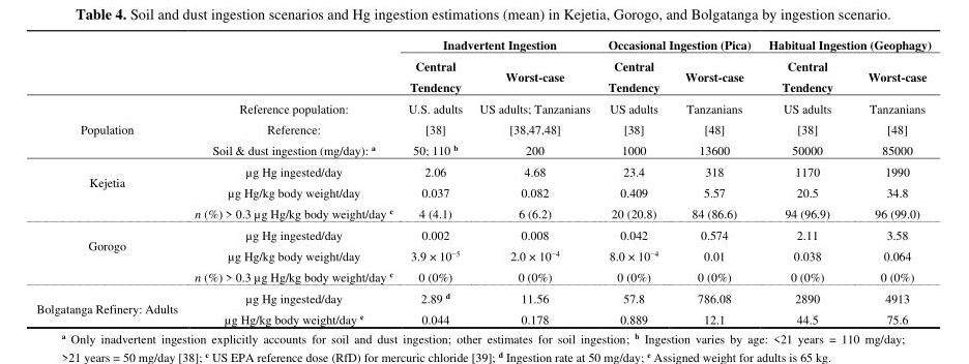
<table><thead><tr><td rowspan="2"></td><td rowspan="2"></td><td colspan="2">Inadvertent Ingestion</td><td colspan="2">Occasional Ingestion (Pica)</td><td colspan="2">Habitual Ingestion (Geophagy)</td></tr><tr><td>Central Tendency</td><td>Worst-case</td><td>Central Tendency</td><td>Worst-case</td><td>Central Tendency</td><td>Worst-case</td></tr></thead><tbody><tr><td rowspan="3">Population</td><td>Reference population:</td><td>U.S. adults</td><td>US adults; Tanzanians</td><td>US adults</td><td>Tanzanians</td><td>US adults</td><td>Tanzanians</td></tr><tr><td>Reference:</td><td>[38]</td><td>[38,47,48]</td><td>[38]</td><td>[48]</td><td>[38]</td><td>[48]</td></tr><tr><td>Soil &amp; dust ingestion (mg/day): <sup>a</sup></td><td>50; 110 <sup>b</sup></td><td>200</td><td>1000</td><td>13600</td><td>50000</td><td>85000</td></tr><tr><td rowspan="3">Kejetia</td><td>µg Hg ingested/day</td><td>2.06</td><td>4.68</td><td>23.4</td><td>318</td><td>1170</td><td>1990</td></tr><tr><td>µg Hg/kg body weight/day</td><td>0.037</td><td>0.082</td><td>0.409</td><td>5.57</td><td>20.5</td><td>34.8</td></tr><tr><td>n (%) &gt; 0.3 µg Hg/kg body weight/day <sup>c</sup></td><td>4 (4.1)</td><td>6 (6.2)</td><td>20 (20.8)</td><td>84 (86.6)</td><td>94 (96.9)</td><td>96 (99.0)</td></tr><tr><td rowspan="3">Gorogo</td><td>µg Hg ingested/day</td><td>0.002</td><td>0.008</td><td>0.042</td><td>0.574</td><td>2.11</td><td>3.58</td></tr><tr><td>µg Hg/kg body weight/day</td><td>3.9 × 10<sup>−5</sup></td><td>2.0 × 10<sup>−4</sup></td><td>8.0 × 10<sup>−4</sup></td><td>0.01</td><td>0.038</td><td>0.064</td></tr><tr><td>n (%) &gt; 0.3 µg Hg/kg body weight/day <sup>c</sup></td><td>0 (0%)</td><td>0 (0%)</td><td>0 (0%)</td><td>0 (0%)</td><td>0 (0%)</td><td>0 (0%)</td></tr><tr><td rowspan="2">Bolgatanga Refinery: Adults</td><td>µg Hg ingested/day</td><td>2.89 <sup>d</sup></td><td>11.56</td><td>57.8</td><td>786.08</td><td>2890</td><td>4913</td></tr><tr><td>µg Hg/kg body weight/day <sup>e</sup></td><td>0.044</td><td>0.178</td><td>0.889</td><td>12.1</td><td>44.5</td><td>75.6</td></tr></tbody></table>